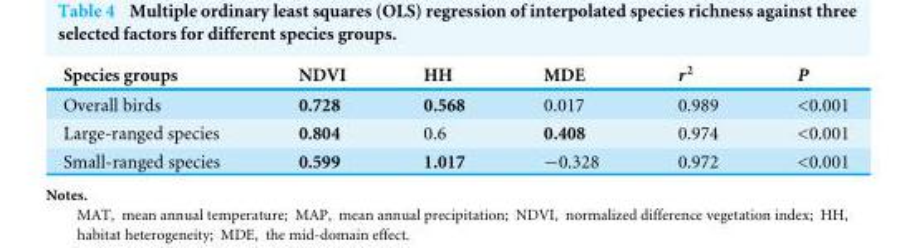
<table><thead><tr><td>Species groups</td><td>NDVI</td><td>HH</td><td>MDE</td><td>r<sup>2</sup></td><td>P</td></tr></thead><tbody><tr><td>Overall birds</td><td>0.728</td><td>0.568</td><td>0.017</td><td>0.989</td><td>&lt;0.001</td></tr><tr><td>Large-ranged species</td><td>0.804</td><td>0.6</td><td>0.408</td><td>0.974</td><td>&lt;0.001</td></tr><tr><td>Small-ranged species</td><td>0.599</td><td>1.017</td><td>−0.328</td><td>0.972</td><td>&lt;0.001</td></tr></tbody></table>